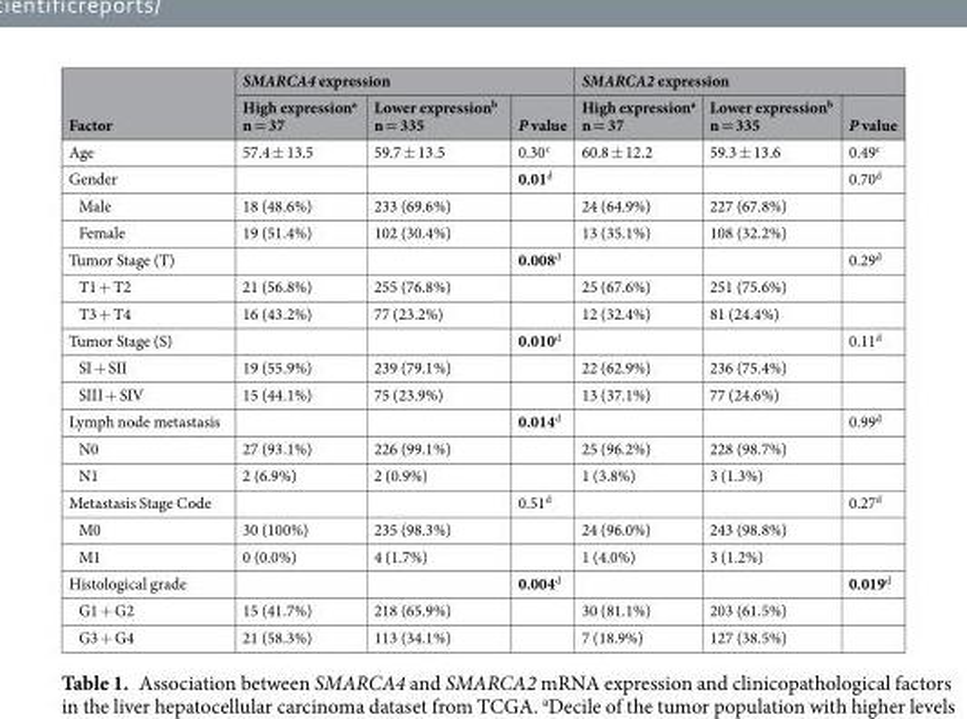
<table><thead><tr><td rowspan="2">Factor</td><td colspan="3">SMARCA4 expression</td><td colspan="3">SMARCA2 expression</td></tr><tr><td>High expression<sup>a</sup> n = 37</td><td>Lower expression<sup>b</sup> n = 335</td><td>P value</td><td>High expression<sup>a</sup> n = 37</td><td>Lower expression<sup>b</sup> n = 335</td><td>P value</td></tr></thead><tbody><tr><td>Age</td><td>57.4 ± 13.5</td><td>59.7 ± 13.5</td><td>0.30<sup>c</sup></td><td>60.8 ± 12.2</td><td>59.3 ± 13.6</td><td>0.49<sup>c</sup></td></tr><tr><td>Gender</td><td></td><td></td><td>0.01<sup>d</sup></td><td></td><td></td><td>0.70<sup>d</sup></td></tr><tr><td>Male</td><td>18 (48.6%)</td><td>233 (69.6%)</td><td></td><td>24 (64.9%)</td><td>227 (67.8%)</td><td></td></tr><tr><td>Female</td><td>19 (51.4%)</td><td>102 (30.4%)</td><td></td><td>13 (35.1%)</td><td>108 (32.2%)</td><td></td></tr><tr><td>Tumor Stage (T)</td><td></td><td></td><td>0.008<sup>d</sup></td><td></td><td></td><td>0.29<sup>d</sup></td></tr><tr><td>T1 + T2</td><td>21 (56.8%)</td><td>255 (76.8%)</td><td></td><td>25 (67.6%)</td><td>251 (75.6%)</td><td></td></tr><tr><td>T3 + T4</td><td>16 (43.2%)</td><td>77 (23.2%)</td><td></td><td>12 (32.4%)</td><td>81 (24.4%)</td><td></td></tr><tr><td>Tumor Stage (S)</td><td></td><td></td><td>0.010<sup>d</sup></td><td></td><td></td><td>0.11<sup>d</sup></td></tr><tr><td>SI + SII</td><td>19 (55.9%)</td><td>239 (79.1%)</td><td></td><td>22 (62.9%)</td><td>236 (75.4%)</td><td></td></tr><tr><td>SIII + SIV</td><td>15 (44.1%)</td><td>75 (23.9%)</td><td></td><td>13 (37.1%)</td><td>77 (24.6%)</td><td></td></tr><tr><td>Lymph node metastasis</td><td></td><td></td><td>0.014<sup>d</sup></td><td></td><td></td><td>0.99<sup>d</sup></td></tr><tr><td>N0</td><td>27 (93.1%)</td><td>226 (99.1%)</td><td></td><td>25 (96.2%)</td><td>228 (98.7%)</td><td></td></tr><tr><td>N1</td><td>2 (6.9%)</td><td>2 (0.9%)</td><td></td><td>1 (3.8%)</td><td>3 (1.3%)</td><td></td></tr><tr><td>Metastasis Stage Code</td><td></td><td></td><td>0.51<sup>d</sup></td><td></td><td></td><td>0.27<sup>d</sup></td></tr><tr><td>M0</td><td>30 (100%)</td><td>235 (98.3%)</td><td></td><td>24 (96.0%)</td><td>243 (98.8%)</td><td></td></tr><tr><td>M1</td><td>0 (0.0%)</td><td>4 (1.7%)</td><td></td><td>1 (4.0%)</td><td>3 (1.2%)</td><td></td></tr><tr><td>Histological grade</td><td></td><td></td><td>0.004<sup>d</sup></td><td></td><td></td><td>0.019<sup>d</sup></td></tr><tr><td>G1 + G2</td><td>15 (41.7%)</td><td>218 (65.9%)</td><td></td><td>30 (81.1%)</td><td>203 (61.5%)</td><td></td></tr><tr><td>G3 + G4</td><td>21 (58.3%)</td><td>113 (34.1%)</td><td></td><td>7 (18.9%)</td><td>127 (38.5%)</td><td></td></tr></tbody></table>